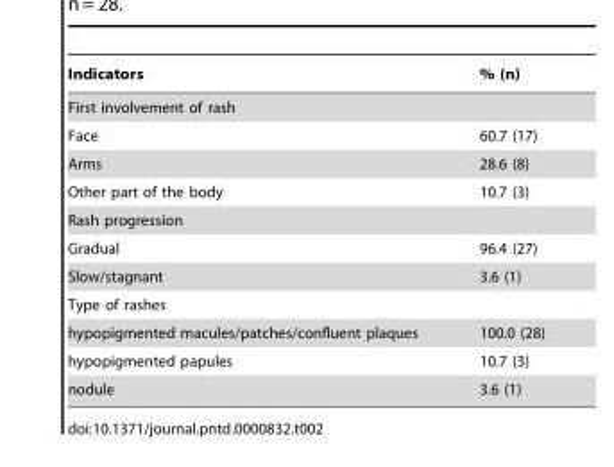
<table><thead><tr><td>Indicators</td><td>% (n)</td></tr></thead><tbody><tr><td colspan="2">First involvement of rash</td></tr><tr><td>Face</td><td>60.7 (17)</td></tr><tr><td>Arms</td><td>28.6 (8)</td></tr><tr><td>Other part of the body</td><td>10.7 (3)</td></tr><tr><td colspan="2">Rash progression</td></tr><tr><td>Gradual</td><td>96.4 (27)</td></tr><tr><td>Slow/stagnant</td><td>3.6 (1)</td></tr><tr><td colspan="2">Type of rashes</td></tr><tr><td>hypopigmented macules/patches/confluent plaques</td><td>100.0 (28)</td></tr><tr><td>hypopigmented papules</td><td>10.7 (3)</td></tr><tr><td>nodule</td><td>3.6 (1)</td></tr></tbody></table>